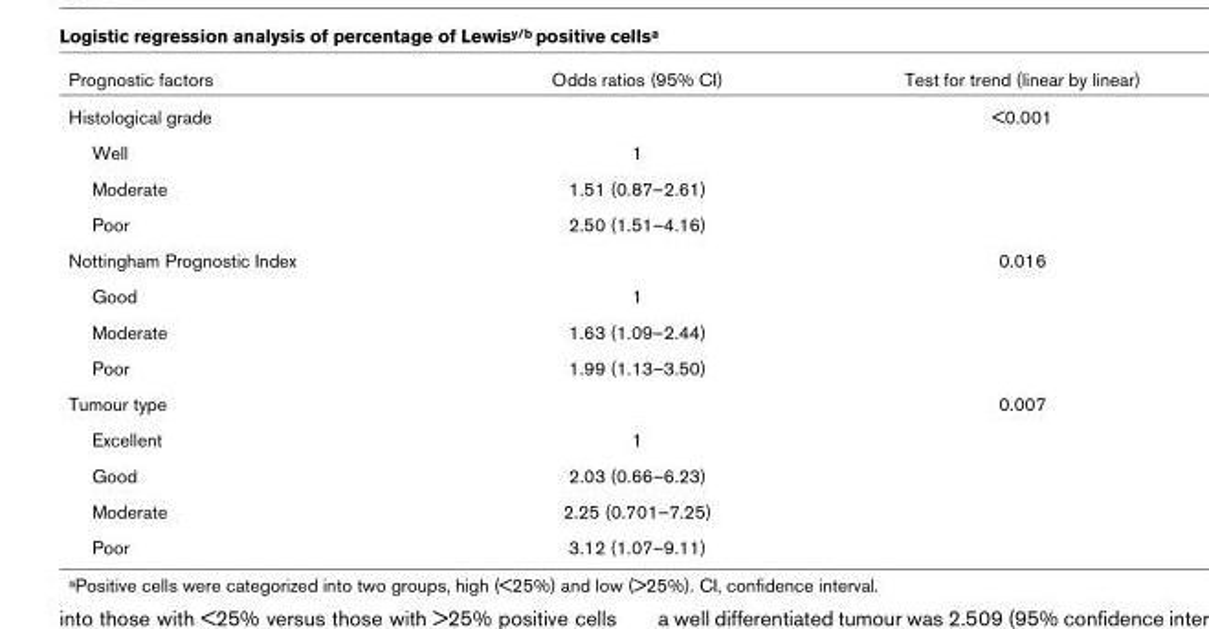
<table><thead><tr><td>Prognostic factors</td><td>Odds ratios (95% CI)</td><td>Test for trend (linear by linear)</td></tr></thead><tbody><tr><td>Histological grade</td><td></td><td>&lt;0.001</td></tr><tr><td>Well</td><td>1</td><td></td></tr><tr><td>Moderate</td><td>1.51 (0.87–2.61)</td><td></td></tr><tr><td>Poor</td><td>2.50 (1.51–4.16)</td><td></td></tr><tr><td>Nottingham Prognostic Index</td><td></td><td>0.016</td></tr><tr><td>Good</td><td>1</td><td></td></tr><tr><td>Moderate</td><td>1.63 (1.09–2.44)</td><td></td></tr><tr><td>Poor</td><td>1.99 (1.13–3.50)</td><td></td></tr><tr><td>Tumour type</td><td></td><td>0.007</td></tr><tr><td>Excellent</td><td>1</td><td></td></tr><tr><td>Good</td><td>2.03 (0.66–6.23)</td><td></td></tr><tr><td>Moderate</td><td>2.25 (0.701–7.25)</td><td></td></tr><tr><td>Poor</td><td>3.12 (1.07–9.11)</td><td></td></tr></tbody></table>